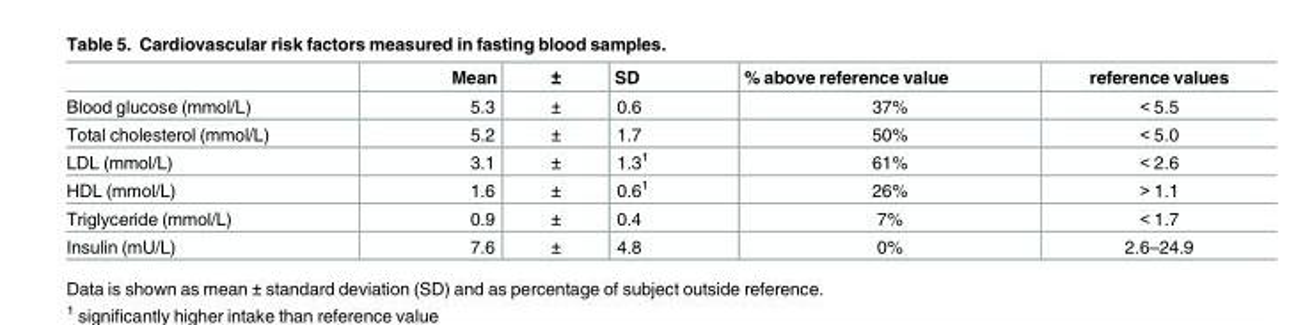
<table><thead><tr><td></td><td>Mean</td><td>±</td><td>SD</td><td>% above reference value</td><td>reference values</td></tr></thead><tbody><tr><td>Blood glucose (mmol/L)</td><td>5.3</td><td>±</td><td>0.6</td><td>37%</td><td>&lt; 5.5</td></tr><tr><td>Total cholesterol (mmol/L)</td><td>5.2</td><td>±</td><td>1.7</td><td>50%</td><td>&lt; 5.0</td></tr><tr><td>LDL (mmol/L)</td><td>3.1</td><td>±</td><td>1.3<sup>1</sup></td><td>61%</td><td>&lt; 2.6</td></tr><tr><td>HDL (mmol/L)</td><td>1.6</td><td>±</td><td>0.6<sup>1</sup></td><td>26%</td><td>&gt; 1.1</td></tr><tr><td>Triglyceride (mmol/L)</td><td>0.9</td><td>±</td><td>0.4</td><td>7%</td><td>&lt; 1.7</td></tr><tr><td>Insulin (mU/L)</td><td>7.6</td><td>±</td><td>4.8</td><td>0%</td><td>2.6–24.9</td></tr></tbody></table>